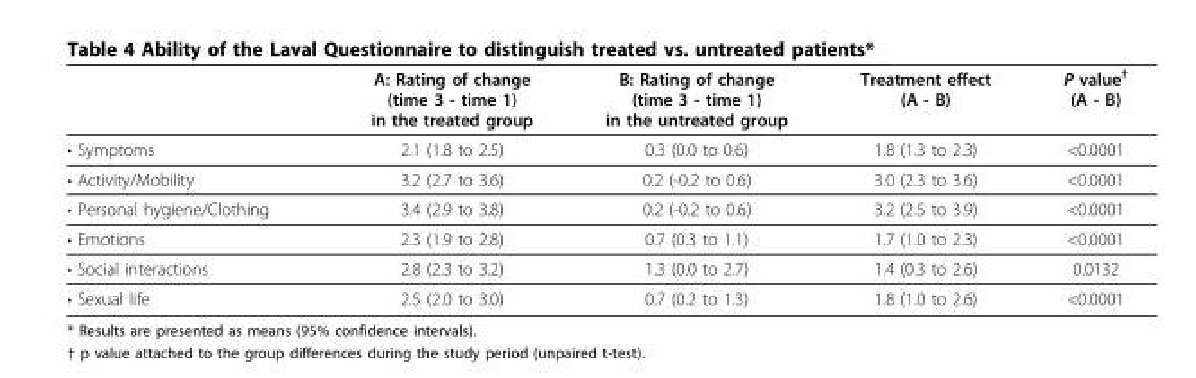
<table><thead><tr><td></td><td>A: Rating of change (time 3 - time 1) in the treated group</td><td>B: Rating of change (time 3 - time 1) in the untreated group</td><td>Treatment effect (A - B)</td><td>P value<sup>†</sup> (A - B)</td></tr></thead><tbody><tr><td>• Symptoms</td><td>2.1 (1.8 to 2.5)</td><td>0.3 (0.0 to 0.6)</td><td>1.8 (1.3 to 2.3)</td><td>&lt;0.0001</td></tr><tr><td>• Activity/Mobility</td><td>3.2 (2.7 to 3.6)</td><td>0.2 (-0.2 to 0.6)</td><td>3.0 (2.3 to 3.6)</td><td>&lt;0.0001</td></tr><tr><td>• Personal hygiene/Clothing</td><td>3.4 (2.9 to 3.8)</td><td>0.2 (-0.2 to 0.6)</td><td>3.2 (2.5 to 3.9)</td><td>&lt;0.0001</td></tr><tr><td>• Emotions</td><td>2.3 (1.9 to 2.8)</td><td>0.7 (0.3 to 1.1)</td><td>1.7 (1.0 to 2.3)</td><td>&lt;0.0001</td></tr><tr><td>• Social interactions</td><td>2.8 (2.3 to 3.2)</td><td>1.3 (0.0 to 2.7)</td><td>1.4 (0.3 to 2.6)</td><td>0.0132</td></tr><tr><td>• Sexual life</td><td>2.5 (2.0 to 3.0)</td><td>0.7 (0.2 to 1.3)</td><td>1.8 (1.0 to 2.6)</td><td>&lt;0.0001</td></tr></tbody></table>